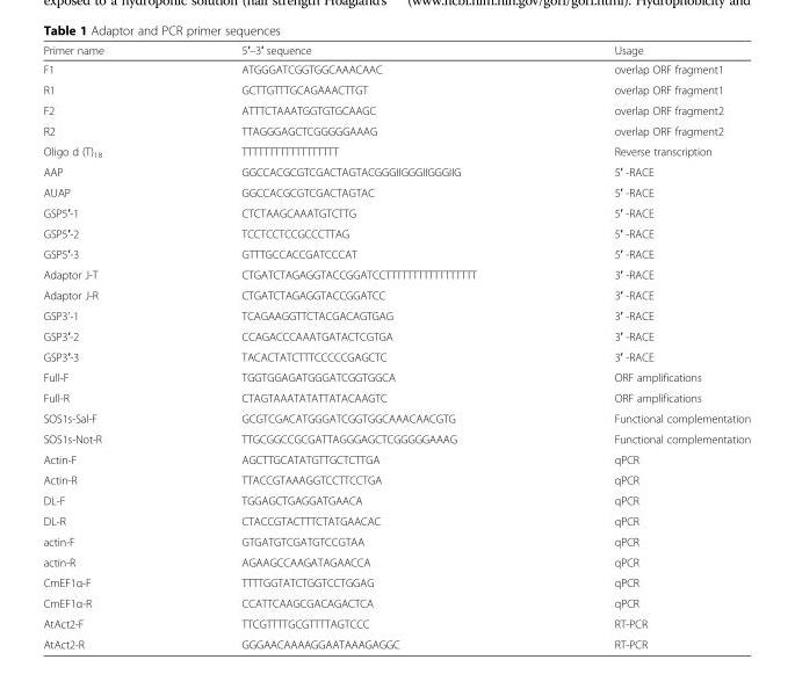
<table><thead><tr><td>Primer name</td><td>5′–3′ sequence</td><td>Usage</td></tr></thead><tbody><tr><td>F1</td><td>ATGGGATCGGTGGCAAACAAC</td><td>overlap ORF fragment1</td></tr><tr><td>R1</td><td>GCTTGTTTGCAGAAACTTGT</td><td>overlap ORF fragment1</td></tr><tr><td>F2</td><td>ATTTCTAAATGGTGTGCAAGC</td><td>overlap ORF fragment2</td></tr><tr><td>R2</td><td>TTAGGGAGCTCGGGGGAAAG</td><td>overlap ORF fragment2</td></tr><tr><td>Oligo d (T)<sub>18</sub></td><td>TTTTTTTTTTTTTTTTTT</td><td>Reverse transcription</td></tr><tr><td>AAP</td><td>GGCCACGCGTCGACTAGTACGGGIIGGGIIGGGIIG</td><td>5′ -RACE</td></tr><tr><td>AUAP</td><td>GGCCACGCGTCGACTAGTAC</td><td>5′ -RACE</td></tr><tr><td>GSP5′-1</td><td>CTCTAAGCAAATGTCTTG</td><td>5′ -RACE</td></tr><tr><td>GSP5′-2</td><td>TCCTCCTCCGCCCTTAG</td><td>5′ -RACE</td></tr><tr><td>GSP5′-3</td><td>GTTTGCCACCGATCCCAT</td><td>5′ -RACE</td></tr><tr><td>Adaptor J-T</td><td>CTGATCTAGAGGTACCGGATCCTTTTTTTTTTTTTTTTT</td><td>3′ -RACE</td></tr><tr><td>Adaptor J-R</td><td>CTGATCTAGAGGTACCGGATCC</td><td>3′ -RACE</td></tr><tr><td>GSP3&#x27;-1</td><td>TCAGAAGGTTCTACGACAGTGAG</td><td>3′ -RACE</td></tr><tr><td>GSP3′-2</td><td>CCAGACCCAAATGATACTCGTGA</td><td>3′ -RACE</td></tr><tr><td>GSP3′-3</td><td>TACACTATCTTTCCCCCGAGCTC</td><td>3′ -RACE</td></tr><tr><td>Full-F</td><td>TGGTGGAGATGGGATCGGTGGCA</td><td>ORF amplifications</td></tr><tr><td>Full-R</td><td>CTAGTAAATATATTATACAAGTC</td><td>ORF amplifications</td></tr><tr><td>SOS1s-Sal-F</td><td>GCGTCGACATGGGATCGGTGGCAAACAACGTG</td><td>Functional complementation</td></tr><tr><td>SOS1s-Not-R</td><td>TTGCGGCCGCGATTAGGGAGCTCGGGGGAAAG</td><td>Functional complementation</td></tr><tr><td>Actin-F</td><td>AGCTTGCATATGTTGCTCTTGA</td><td>qPCR</td></tr><tr><td>Actin-R</td><td>TTACCGTAAAGGTCCTTCCTGA</td><td>qPCR</td></tr><tr><td>DL-F</td><td>TGGAGCTGAGGATGAACA</td><td>qPCR</td></tr><tr><td>DL-R</td><td>CTACCGTACTTTCTATGAACAC</td><td>qPCR</td></tr><tr><td>actin-F</td><td>GTGATGTCGATGTCCGTAA</td><td>qPCR</td></tr><tr><td>actin-R</td><td>AGAAGCCAAGATAGAACCA</td><td>qPCR</td></tr><tr><td>CmEF1α-F</td><td>TTTTGGTATCTGGTCCTGGAG</td><td>qPCR</td></tr><tr><td>CmEF1α-R</td><td>CCATTCAAGCGACAGACTCA</td><td>qPCR</td></tr><tr><td>AtAct2-F</td><td>TTCGTTTTGCGTTTTAGTCCC</td><td>RT-PCR</td></tr><tr><td>AtAct2-R</td><td>GGGAACAAAAGGAATAAAGAGGC</td><td>RT-PCR</td></tr></tbody></table>